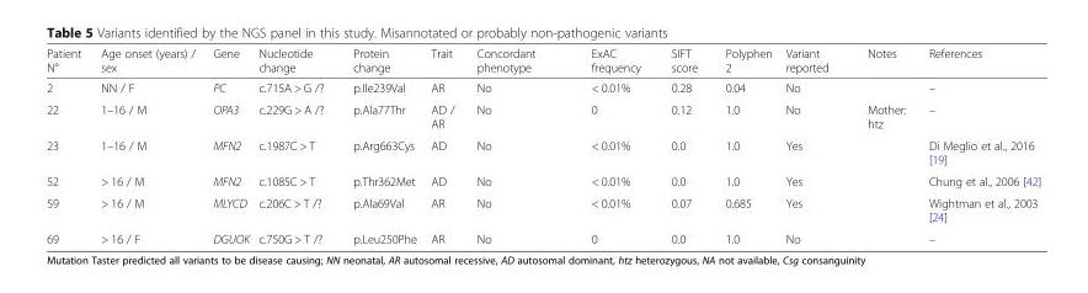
<table><thead><tr><td>Patient N°</td><td>Age onset (years) / sex</td><td>Gene</td><td>Nucleotide change</td><td>Protein change</td><td>Trait</td><td>Concordant phenotype</td><td>ExAC frequency</td><td>SIFT score</td><td>Polyphen 2</td><td>Variant reported</td><td>Notes</td><td>References</td></tr></thead><tbody><tr><td>2</td><td>NN / F</td><td>PC</td><td>c.715A &gt; G /?</td><td>p.Ile239Val</td><td>AR</td><td>No</td><td>&lt; 0.01%</td><td>0.28</td><td>0.04</td><td>No</td><td></td><td>–</td></tr><tr><td>22</td><td>1–16 / M</td><td>OPA3</td><td>c.229G &gt; A /?</td><td>p.Ala77Thr</td><td>AD / AR</td><td>No</td><td>0</td><td>0.12</td><td>1.0</td><td>No</td><td>Mother: htz</td><td>–</td></tr><tr><td>23</td><td>1–16 / M</td><td>MFN2</td><td>c.1987C &gt; T</td><td>p.Arg663Cys</td><td>AD</td><td>No</td><td>&lt; 0.01%</td><td>0.0</td><td>1.0</td><td>Yes</td><td></td><td>Di Meglio et al., 2016 [19]</td></tr><tr><td>52</td><td>&gt; 16 / M</td><td>MFN2</td><td>c.1085C &gt; T</td><td>p.Thr362Met</td><td>AD</td><td>No</td><td>&lt; 0.01%</td><td>0.0</td><td>1.0</td><td>Yes</td><td></td><td>Chung et al., 2006 [42]</td></tr><tr><td>59</td><td>&gt; 16 / M</td><td>MLYCD</td><td>c.206C &gt; T /?</td><td>p.Ala69Val</td><td>AR</td><td>No</td><td>&lt; 0.01%</td><td>0.07</td><td>0.685</td><td>Yes</td><td></td><td>Wightman et al., 2003 [24]</td></tr><tr><td>69</td><td>&gt; 16 / F</td><td>DGUOK</td><td>c.750G &gt; T /?</td><td>p.Leu250Phe</td><td>AR</td><td>No</td><td>0</td><td>0.0</td><td>1.0</td><td>No</td><td></td><td>–</td></tr></tbody></table>